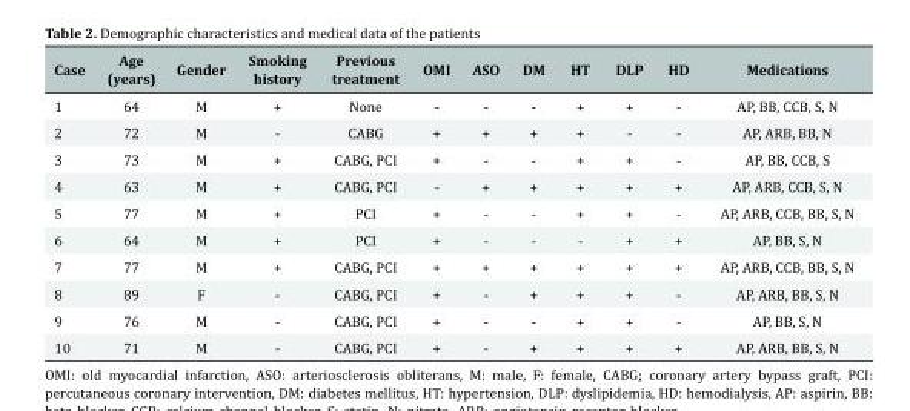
<table><thead><tr><td>Case</td><td>Age (years)</td><td>Gender</td><td>Smoking history</td><td>Previous treatment</td><td>OMI</td><td>ASO</td><td>DM</td><td>HT</td><td>DLP</td><td>HD</td><td>Medications</td></tr></thead><tbody><tr><td>1</td><td>64</td><td>M</td><td>+</td><td>None</td><td>-</td><td>-</td><td>-</td><td>+</td><td>+</td><td>-</td><td>AP, BB, CCB, S, N</td></tr><tr><td>2</td><td>72</td><td>M</td><td>-</td><td>CABG</td><td>+</td><td>+</td><td>+</td><td>+</td><td>-</td><td>-</td><td>AP, ARB, BB, N</td></tr><tr><td>3</td><td>73</td><td>M</td><td>+</td><td>CABG, PCI</td><td>+</td><td>-</td><td>-</td><td>+</td><td>+</td><td>-</td><td>AP, BB, CCB, S</td></tr><tr><td>4</td><td>63</td><td>M</td><td>+</td><td>CABG, PCI</td><td>-</td><td>+</td><td>+</td><td>+</td><td>+</td><td>+</td><td>AP, ARB, CCB, S, N</td></tr><tr><td>5</td><td>77</td><td>M</td><td>+</td><td>PCI</td><td>+</td><td>-</td><td>-</td><td>+</td><td>+</td><td>-</td><td>AP, ARB, CCB, BB, S, N</td></tr><tr><td>6</td><td>64</td><td>M</td><td>+</td><td>PCI</td><td>+</td><td>-</td><td>-</td><td>-</td><td>+</td><td>+</td><td>AP, BB, S, N</td></tr><tr><td>7</td><td>77</td><td>M</td><td>+</td><td>CABG, PCI</td><td>+</td><td>+</td><td>+</td><td>+</td><td>+</td><td>+</td><td>AP, ARB, CCB, BB, S, N</td></tr><tr><td>8</td><td>89</td><td>F</td><td>-</td><td>CABG, PCI</td><td>+</td><td>-</td><td>+</td><td>+</td><td>+</td><td>-</td><td>AP, ARB, BB, S, N</td></tr><tr><td>9</td><td>76</td><td>M</td><td>-</td><td>CABG, PCI</td><td>+</td><td>-</td><td>-</td><td>+</td><td>+</td><td>-</td><td>AP, BB, S, N</td></tr><tr><td>10</td><td>71</td><td>M</td><td>-</td><td>CABG, PCI</td><td>+</td><td>-</td><td>+</td><td>+</td><td>+</td><td>+</td><td>AP, ARB, BB, S, N</td></tr></tbody></table>